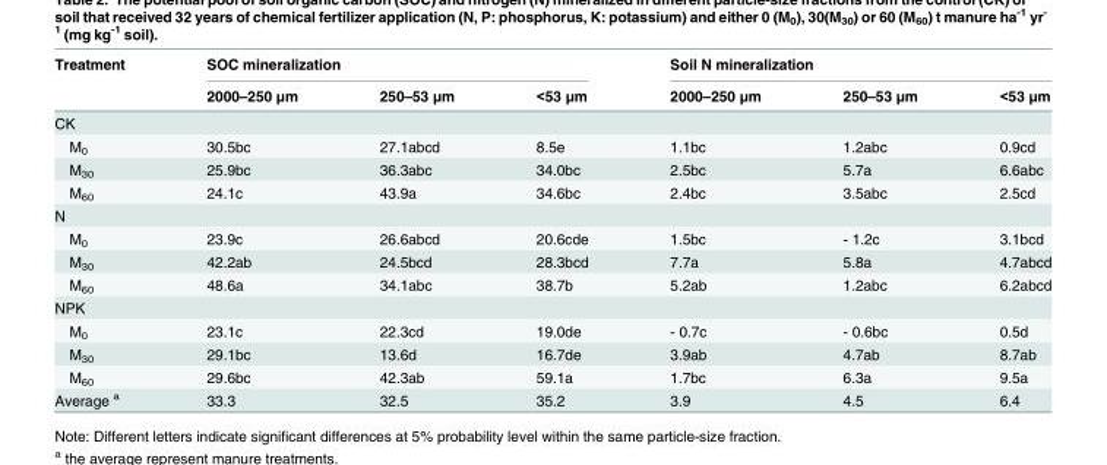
<table><thead><tr><td rowspan="2">Treatment</td><td colspan="3">SOC mineralization</td><td colspan="3">Soil N mineralization</td></tr><tr><td>2000–250 μm</td><td>250–53 μm</td><td>&lt;53 μm</td><td>2000–250 μm</td><td>250–53 μm</td><td>&lt;53 μm</td></tr></thead><tbody><tr><td colspan="7">CK</td></tr><tr><td>M<sub>0</sub></td><td>30.5bc</td><td>27.1abcd</td><td>8.5e</td><td>1.1bc</td><td>1.2abc</td><td>0.9cd</td></tr><tr><td>M<sub>30</sub></td><td>25.9bc</td><td>36.3abc</td><td>34.0bc</td><td>2.5bc</td><td>5.7a</td><td>6.6abc</td></tr><tr><td>M<sub>60</sub></td><td>24.1c</td><td>43.9a</td><td>34.6bc</td><td>2.4bc</td><td>3.5abc</td><td>2.5cd</td></tr><tr><td colspan="7">N</td></tr><tr><td>M<sub>0</sub></td><td>23.9c</td><td>26.6abcd</td><td>20.6cde</td><td>1.5bc</td><td>- 1.2c</td><td>3.1bcd</td></tr><tr><td>M<sub>30</sub></td><td>42.2ab</td><td>24.5bcd</td><td>28.3bcd</td><td>7.7a</td><td>5.8a</td><td>4.7abcd</td></tr><tr><td>M<sub>60</sub></td><td>48.6a</td><td>34.1abc</td><td>38.7b</td><td>5.2ab</td><td>1.2abc</td><td>6.2abcd</td></tr><tr><td colspan="7">NPK</td></tr><tr><td>M<sub>0</sub></td><td>23.1c</td><td>22.3cd</td><td>19.0de</td><td>- 0.7c</td><td>- 0.6bc</td><td>0.5d</td></tr><tr><td>M<sub>30</sub></td><td>29.1bc</td><td>13.6d</td><td>16.7de</td><td>3.9ab</td><td>4.7ab</td><td>8.7ab</td></tr><tr><td>M<sub>60</sub></td><td>29.6bc</td><td>42.3ab</td><td>59.1a</td><td>1.7bc</td><td>6.3a</td><td>9.5a</td></tr><tr><td>Average <sup>a</sup></td><td>33.3</td><td>32.5</td><td>35.2</td><td>3.9</td><td>4.5</td><td>6.4</td></tr></tbody></table>